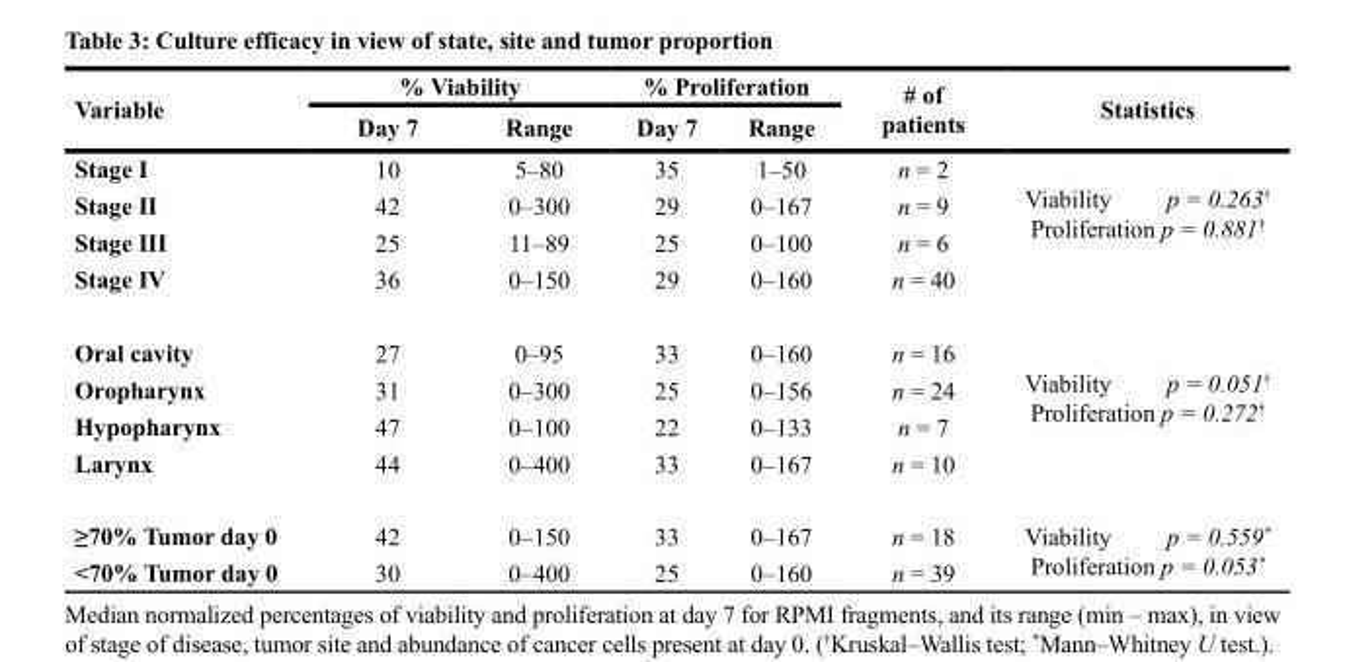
<table><thead><tr><td rowspan="2">Variable</td><td colspan="2">% Viability</td><td colspan="2">% Proliferation</td><td rowspan="2"># of patients</td><td rowspan="2">Statistics</td></tr><tr><td>Day 7</td><td>Range</td><td>Day 7</td><td>Range</td></tr></thead><tbody><tr><td>Stage I</td><td>10</td><td>5–80</td><td>35</td><td>1–50</td><td>n = 2</td><td rowspan="4">Viability p = 0.263<sup>†</sup> Proliferation p = 0.881<sup>†</sup></td></tr><tr><td>Stage II</td><td>42</td><td>0–300</td><td>29</td><td>0–167</td><td>n = 9</td></tr><tr><td>Stage III</td><td>25</td><td>11–89</td><td>25</td><td>0–100</td><td>n = 6</td></tr><tr><td>Stage IV</td><td>36</td><td>0–150</td><td>29</td><td>0–160</td><td>n = 40</td></tr><tr><td>Oral cavity</td><td>27</td><td>0–95</td><td>33</td><td>0–160</td><td>n = 16</td><td rowspan="4">Viability p = 0.051<sup>†</sup> Proliferation p = 0.272<sup>†</sup></td></tr><tr><td>Oropharynx</td><td>31</td><td>0–300</td><td>25</td><td>0–156</td><td>n = 24</td></tr><tr><td>Hypopharynx</td><td>47</td><td>0–100</td><td>22</td><td>0–133</td><td>n = 7</td></tr><tr><td>Larynx</td><td>44</td><td>0–400</td><td>33</td><td>0–167</td><td>n = 10</td></tr><tr><td>≥70% Tumor day 0</td><td>42</td><td>0–150</td><td>33</td><td>0–167</td><td>n = 18</td><td rowspan="2">Viability p = 0.559* Proliferation p = 0.053*</td></tr><tr><td>&lt;70% Tumor day 0</td><td>30</td><td>0–400</td><td>25</td><td>0–160</td><td>n = 39</td></tr></tbody></table>